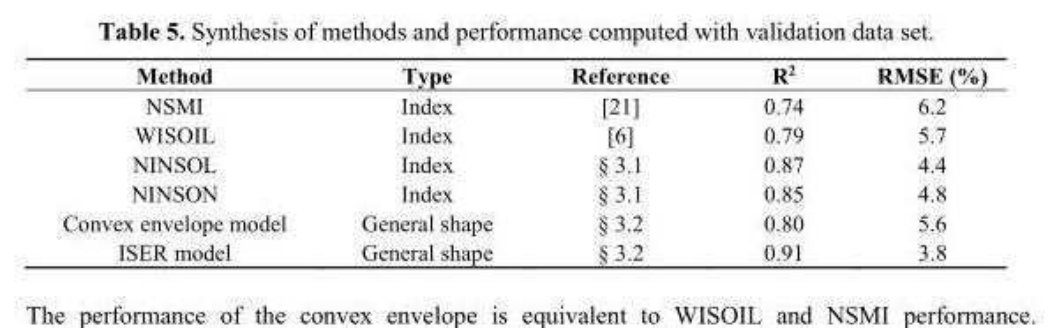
<table><thead><tr><td>Method</td><td>Type</td><td>Reference</td><td>R<sup>2</sup></td><td>RMSE (%)</td></tr></thead><tbody><tr><td>NSMI</td><td>Index</td><td>[21]</td><td>0.74</td><td>6.2</td></tr><tr><td>WISOIL</td><td>Index</td><td>[6]</td><td>0.79</td><td>5.7</td></tr><tr><td>NINSOL</td><td>Index</td><td>§ 3.1</td><td>0.87</td><td>4.4</td></tr><tr><td>NINSON</td><td>Index</td><td>§ 3.1</td><td>0.85</td><td>4.8</td></tr><tr><td>Convex envelope model</td><td>General shape</td><td>§ 3.2</td><td>0.80</td><td>5.6</td></tr><tr><td>ISER model</td><td>General shape</td><td>§ 3.2</td><td>0.91</td><td>3.8</td></tr></tbody></table>